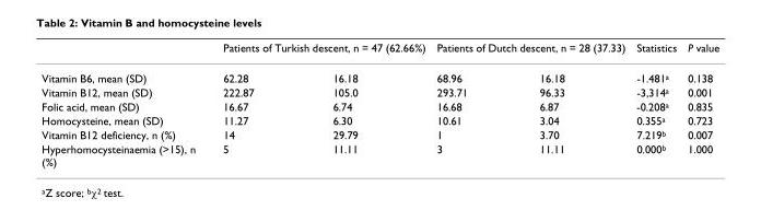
<table><thead><tr><td rowspan="2">Vitamin B6, mean (SD)</td><td colspan="2">Patients of Turkish descent, n = 47 (62.66%)</td><td colspan="2">Patients of Dutch descent, n = 28 (37.33)</td><td rowspan="2">Statistics -1.481<sup>a</sup></td><td rowspan="2">P value 0.138</td></tr><tr><td>62.28</td><td>16.18</td><td>68.96</td><td>16.18</td></tr></thead><tbody><tr><td>Vitamin B12, mean (SD)</td><td>222.87</td><td>105.0</td><td>293.71</td><td>96.33</td><td>-3,314<sup>a</sup></td><td>0.001</td></tr><tr><td>Folic acid, mean (SD)</td><td>16.67</td><td>6.74</td><td>16.68</td><td>6.87</td><td>-0.208<sup>a</sup></td><td>0.835</td></tr><tr><td>Homocysteine, mean (SD)</td><td>11.27</td><td>6.30</td><td>10.61</td><td>3.04</td><td>0.355<sup>a</sup></td><td>0.723</td></tr><tr><td>Vitamin B12 deficiency, n (%)</td><td>14</td><td>29.79</td><td>1</td><td>3.70</td><td>7.219<sup>b</sup></td><td>0.007</td></tr><tr><td>Hyperhomocysteinaemia (&gt;15), n (%)</td><td>5</td><td>11.11</td><td>3</td><td>11.11</td><td>0.000<sup>b</sup></td><td>1.000</td></tr></tbody></table>